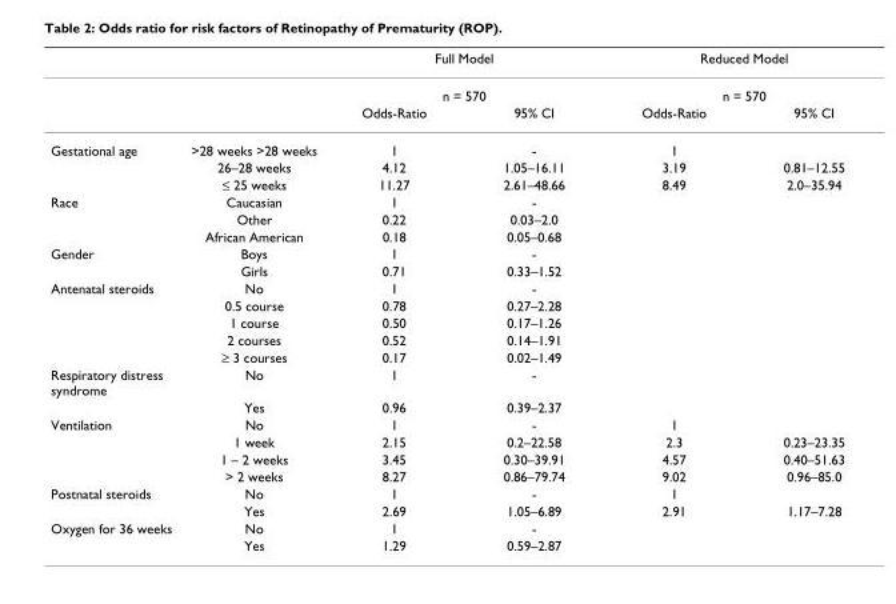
<table><thead><tr><td rowspan="3"></td><td rowspan="3"></td><td rowspan="2" colspan="2">Full Model n = 570</td><td rowspan="2" colspan="2">Reduced Model n = 570</td></tr><tr></tr><tr><td>Odds-Ratio</td><td>95% CI</td><td>Odds-Ratio</td><td>95% CI</td></tr></thead><tbody><tr><td rowspan="3">Gestational age</td><td>&gt;28 weeks &gt;28 weeks</td><td>1</td><td>-</td><td>1</td><td></td></tr><tr><td>26–28 weeks</td><td>4.12</td><td>1.05–16.11</td><td>3.19</td><td>0.81–12.55</td></tr><tr><td>≤ 25 weeks</td><td>11.27</td><td>2.61–48.66</td><td>8.49</td><td>2.0–35.94</td></tr><tr><td rowspan="3">Race</td><td>Caucasian</td><td>1</td><td>-</td><td></td><td></td></tr><tr><td>Other</td><td>0.22</td><td>0.03–2.0</td><td></td><td></td></tr><tr><td>African American</td><td>0.18</td><td>0.05–0.68</td><td></td><td></td></tr><tr><td rowspan="2">Gender</td><td>Boys</td><td>1</td><td>-</td><td></td><td></td></tr><tr><td>Girls</td><td>0.71</td><td>0.33–1.52</td><td></td><td></td></tr><tr><td rowspan="5">Antenatal steroids</td><td>No</td><td>1</td><td>-</td><td></td><td></td></tr><tr><td>0.5 course</td><td>0.78</td><td>0.27–2.28</td><td></td><td></td></tr><tr><td>1 course</td><td>0.50</td><td>0.17–1.26</td><td></td><td></td></tr><tr><td>2 courses</td><td>0.52</td><td>0.14–1.91</td><td></td><td></td></tr><tr><td>≥ 3 courses</td><td>0.17</td><td>0.02–1.49</td><td></td><td></td></tr><tr><td rowspan="2">Respiratory distress syndrome</td><td>No</td><td>1</td><td>-</td><td></td><td></td></tr><tr><td>Yes</td><td>0.96</td><td>0.39–2.37</td><td></td><td></td></tr><tr><td rowspan="4">Ventilation</td><td>No</td><td>1</td><td>-</td><td>1</td><td></td></tr><tr><td>1 week</td><td>2.15</td><td>0.2–22.58</td><td>2.3</td><td>0.23–23.35</td></tr><tr><td>1 – 2 weeks</td><td>3.45</td><td>0.30–39.91</td><td>4.57</td><td>0.40–51.63</td></tr><tr><td>&gt; 2 weeks</td><td>8.27</td><td>0.86–79.74</td><td>9.02</td><td>0.96–85.0</td></tr><tr><td rowspan="2">Postnatal steroids</td><td>No</td><td>1</td><td>-</td><td>1</td><td></td></tr><tr><td>Yes</td><td>2.69</td><td>1.05–6.89</td><td>2.91</td><td>1.17–7.28</td></tr><tr><td rowspan="2">Oxygen for 36 weeks</td><td>No</td><td>1</td><td>-</td><td></td><td></td></tr><tr><td>Yes</td><td>1.29</td><td>0.59–2.87</td><td></td><td></td></tr></tbody></table>